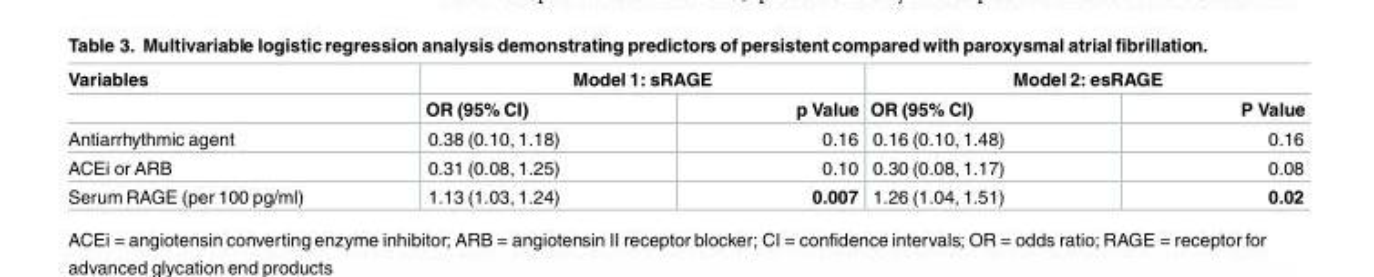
<table><thead><tr><td rowspan="2">Variables</td><td colspan="2">Model 1: sRAGE</td><td colspan="2">Model 2: esRAGE</td></tr><tr><td>OR (95% CI)</td><td>p Value</td><td>OR (95% CI)</td><td>P Value</td></tr></thead><tbody><tr><td>Antiarrhythmic agent</td><td>0.38 (0.10, 1.18)</td><td>0.16</td><td>0.16 (0.10, 1.48)</td><td>0.16</td></tr><tr><td>ACEi or ARB</td><td>0.31 (0.08, 1.25)</td><td>0.10</td><td>0.30 (0.08, 1.17)</td><td>0.08</td></tr><tr><td>Serum RAGE (per 100 pg/ml)</td><td>1.13 (1.03, 1.24)</td><td>0.007</td><td>1.26 (1.04, 1.51)</td><td>0.02</td></tr></tbody></table>